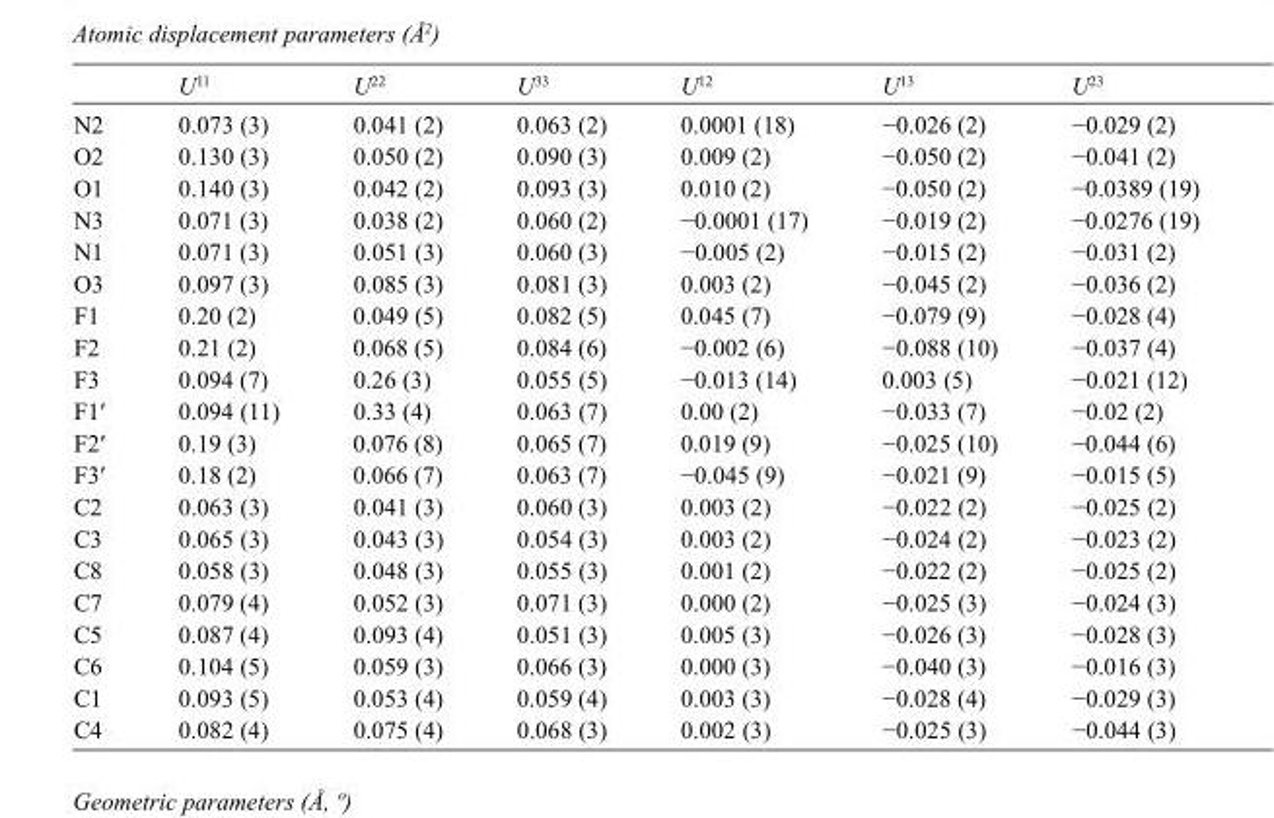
<table><thead><tr><td></td><td>U<sup>11</sup></td><td>U<sup>22</sup></td><td>U<sup>33</sup></td><td>U<sup>12</sup></td><td>U<sup>13</sup></td><td>U<sup>23</sup></td></tr></thead><tbody><tr><td>N2</td><td>0.073 (3)</td><td>0.041 (2)</td><td>0.063 (2)</td><td>0.0001 (18)</td><td>−0.026 (2)</td><td>−0.029 (2)</td></tr><tr><td>O2</td><td>0.130 (3)</td><td>0.050 (2)</td><td>0.090 (3)</td><td>0.009 (2)</td><td>−0.050 (2)</td><td>−0.041 (2)</td></tr><tr><td>O1</td><td>0.140 (3)</td><td>0.042 (2)</td><td>0.093 (3)</td><td>0.010 (2)</td><td>−0.050 (2)</td><td>−0.0389 (19)</td></tr><tr><td>N3</td><td>0.071 (3)</td><td>0.038 (2)</td><td>0.060 (2)</td><td>−0.0001 (17)</td><td>−0.019 (2)</td><td>−0.0276 (19)</td></tr><tr><td>N1</td><td>0.071 (3)</td><td>0.051 (3)</td><td>0.060 (3)</td><td>−0.005 (2)</td><td>−0.015 (2)</td><td>−0.031 (2)</td></tr><tr><td>O3</td><td>0.097 (3)</td><td>0.085 (3)</td><td>0.081 (3)</td><td>0.003 (2)</td><td>−0.045 (2)</td><td>−0.036 (2)</td></tr><tr><td>F1</td><td>0.20 (2)</td><td>0.049 (5)</td><td>0.082 (5)</td><td>0.045 (7)</td><td>−0.079 (9)</td><td>−0.028 (4)</td></tr><tr><td>F2</td><td>0.21 (2)</td><td>0.068 (5)</td><td>0.084 (6)</td><td>−0.002 (6)</td><td>−0.088 (10)</td><td>−0.037 (4)</td></tr><tr><td>F3</td><td>0.094 (7)</td><td>0.26 (3)</td><td>0.055 (5)</td><td>−0.013 (14)</td><td>0.003 (5)</td><td>−0.021 (12)</td></tr><tr><td>F1′</td><td>0.094 (11)</td><td>0.33 (4)</td><td>0.063 (7)</td><td>0.00 (2)</td><td>−0.033 (7)</td><td>−0.02 (2)</td></tr><tr><td>F2′</td><td>0.19 (3)</td><td>0.076 (8)</td><td>0.065 (7)</td><td>0.019 (9)</td><td>−0.025 (10)</td><td>−0.044 (6)</td></tr><tr><td>F3′</td><td>0.18 (2)</td><td>0.066 (7)</td><td>0.063 (7)</td><td>−0.045 (9)</td><td>−0.021 (9)</td><td>−0.015 (5)</td></tr><tr><td>C2</td><td>0.063 (3)</td><td>0.041 (3)</td><td>0.060 (3)</td><td>0.003 (2)</td><td>−0.022 (2)</td><td>−0.025 (2)</td></tr><tr><td>C3</td><td>0.065 (3)</td><td>0.043 (3)</td><td>0.054 (3)</td><td>0.003 (2)</td><td>−0.024 (2)</td><td>−0.023 (2)</td></tr><tr><td>C8</td><td>0.058 (3)</td><td>0.048 (3)</td><td>0.055 (3)</td><td>0.001 (2)</td><td>−0.022 (2)</td><td>−0.025 (2)</td></tr><tr><td>C7</td><td>0.079 (4)</td><td>0.052 (3)</td><td>0.071 (3)</td><td>0.000 (2)</td><td>−0.025 (3)</td><td>−0.024 (3)</td></tr><tr><td>C5</td><td>0.087 (4)</td><td>0.093 (4)</td><td>0.051 (3)</td><td>0.005 (3)</td><td>−0.026 (3)</td><td>−0.028 (3)</td></tr><tr><td>C6</td><td>0.104 (5)</td><td>0.059 (3)</td><td>0.066 (3)</td><td>0.000 (3)</td><td>−0.040 (3)</td><td>−0.016 (3)</td></tr><tr><td>C1</td><td>0.093 (5)</td><td>0.053 (4)</td><td>0.059 (4)</td><td>0.003 (3)</td><td>−0.028 (4)</td><td>−0.029 (3)</td></tr><tr><td>C4</td><td>0.082 (4)</td><td>0.075 (4)</td><td>0.068 (3)</td><td>0.002 (3)</td><td>−0.025 (3)</td><td>−0.044 (3)</td></tr></tbody></table>